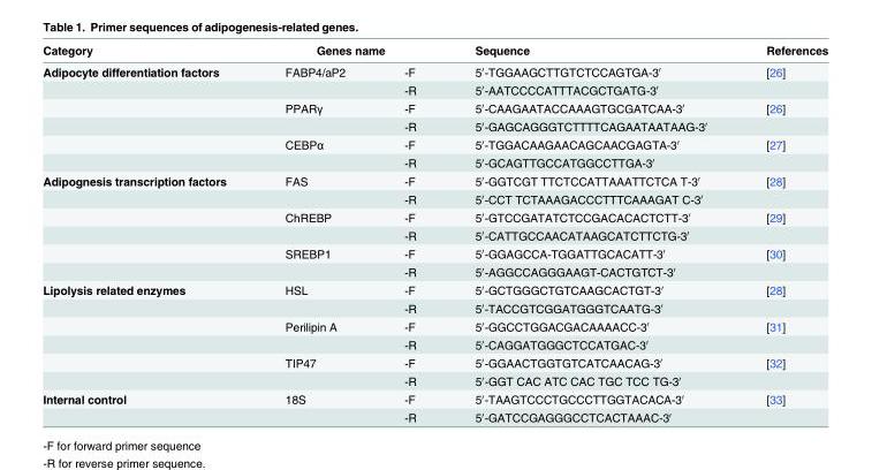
<table><thead><tr><td rowspan="2">Category Adipocyte differentiation factors</td><td colspan="2">Genes name</td><td rowspan="2">Sequence 5′-TGGAAGCTTGTCTCCAGTGA-3′</td><td rowspan="2">References [26]</td></tr><tr><td>FABP4/aP2</td><td>-F</td></tr></thead><tbody><tr><td></td><td></td><td>-R</td><td>5′-AATCCCCATTTACGCTGATG-3′</td><td></td></tr><tr><td></td><td>PPARγ</td><td>-F</td><td>5′-CAAGAATACCAAAGTGCGATCAA-3′</td><td>[26]</td></tr><tr><td></td><td></td><td>-R</td><td>5′-GAGCAGGGTCTTTTCAGAATAATAAG-3′</td><td></td></tr><tr><td></td><td>CEBPα</td><td>-F</td><td>5′-TGGACAAGAACAGCAACGAGTA-3′</td><td>[27]</td></tr><tr><td></td><td></td><td>-R</td><td>5′-GCAGTTGCCATGGCCTTGA-3′</td><td></td></tr><tr><td rowspan="6">Adipognesis transcription factors</td><td>FAS</td><td>-F</td><td>5′-GGTCGT TTCTCCATTAAATTCTCA T-3′</td><td>[28]</td></tr><tr><td></td><td>-R</td><td>5′-CCT TCTAAAGACCCTTTCAAAGAT C-3′</td><td></td></tr><tr><td>ChREBP</td><td>-F</td><td>5′-GTCCGATATCTCCGACACACTCTT-3′</td><td>[29]</td></tr><tr><td></td><td>-R</td><td>5′-CATTGCCAACATAAGCATCTTCTG-3′</td><td></td></tr><tr><td>SREBP1</td><td>-F</td><td>5′-GGAGCCA-TGGATTGCACATT-3′</td><td>[30]</td></tr><tr><td></td><td>-R</td><td>5′-AGGCCAGGGAAGT-CACTGTCT-3′</td><td></td></tr><tr><td rowspan="6">Lipolysis related enzymes</td><td>HSL</td><td>-F</td><td>5′-GCTGGGCTGTCAAGCACTGT-3′</td><td>[28]</td></tr><tr><td></td><td>-R</td><td>5′-TACCGTCGGATGGGTCAATG-3′</td><td></td></tr><tr><td>Perilipin A</td><td>-F</td><td>5′-GGCCTGGACGACAAAACC-3′</td><td>[31]</td></tr><tr><td></td><td>-R</td><td>5′-CAGGATGGGCTCCATGAC-3′</td><td></td></tr><tr><td>TIP47</td><td>-F</td><td>5′-GGAACTGGTGTCATCAACAG-3′</td><td>[32]</td></tr><tr><td></td><td>-R</td><td>5′-GGT CAC ATC CAC TGC TCC TG-3′</td><td></td></tr><tr><td rowspan="2">Internal control</td><td>18S</td><td>-F</td><td>5′-TAAGTCCCTGCCCTTGGTACACA-3′</td><td>[33]</td></tr><tr><td></td><td>-R</td><td>5′-GATCCGAGGGCCTCACTAAAC-3′</td><td></td></tr></tbody></table>